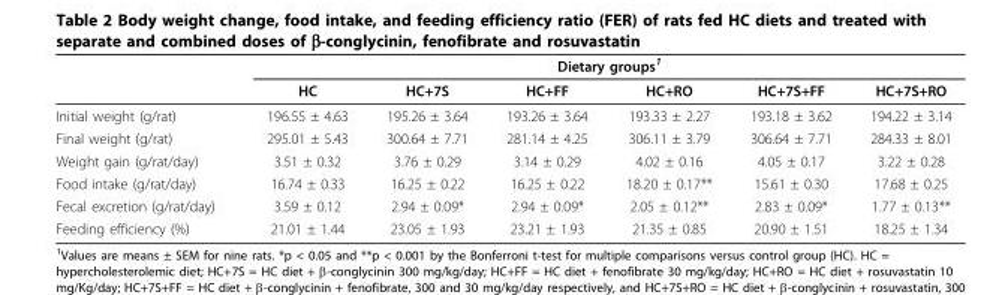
<table><thead><tr><td rowspan="2"></td><td colspan="6">Dietary groups<sup>1</sup></td></tr><tr><td>HC</td><td>HC+7S</td><td>HC+FF</td><td>HC+RO</td><td>HC+7S+FF</td><td>HC+7S+RO</td></tr></thead><tbody><tr><td>Initial weight (g/rat)</td><td>196.55 ± 4.63</td><td>195.26 ± 3.64</td><td>193.26 ± 3.64</td><td>193.33 ± 2.27</td><td>193.18 ± 3.62</td><td>194.22 ± 3.14</td></tr><tr><td>Final weight (g/rat)</td><td>295.01 ± 5.43</td><td>300.64 ± 7.71</td><td>281.14 ± 4.25</td><td>306.11 ± 3.79</td><td>306.64 ± 7.71</td><td>284.33 ± 8.01</td></tr><tr><td>Weight gain (g/rat/day)</td><td>3.51 ± 0.32</td><td>3.76 ± 0.29</td><td>3.14 ± 0.29</td><td>4.02 ± 0.16</td><td>4.05 ± 0.17</td><td>3.22 ± 0.28</td></tr><tr><td>Food intake (g/rat/day)</td><td>16.74 ± 0.33</td><td>16.25 ± 0.22</td><td>16.25 ± 0.22</td><td>18.20 ± 0.17**</td><td>15.61 ± 0.30</td><td>17.68 ± 0.25</td></tr><tr><td>Fecal excretion (g/rat/day)</td><td>3.59 ± 0.12</td><td>2.94 ± 0.09*</td><td>2.94 ± 0.09*</td><td>2.05 ± 0.12**</td><td>2.83 ± 0.09*</td><td>1.77 ± 0.13**</td></tr><tr><td>Feeding efficiency (%)</td><td>21.01 ± 1.44</td><td>23.05 ± 1.93</td><td>23.21 ± 1.93</td><td>21.35 ± 0.85</td><td>20.90 ± 1.51</td><td>18.25 ± 1.34</td></tr></tbody></table>